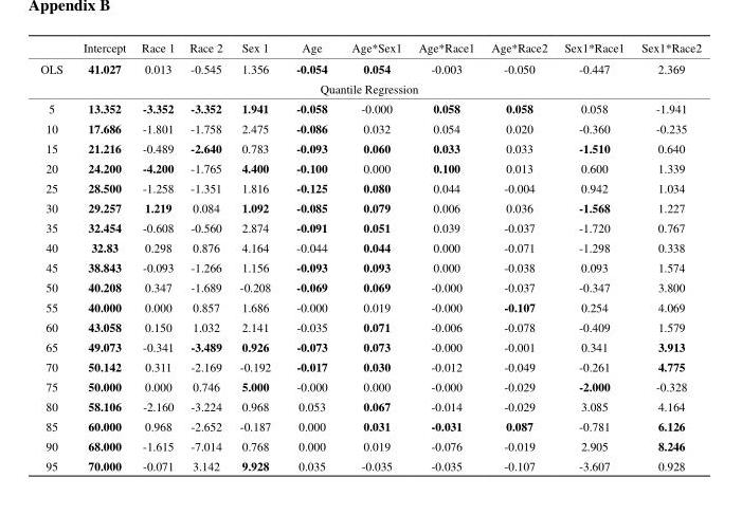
<table><thead><tr><td></td><td>Intercept</td><td>Race 1</td><td>Race 2</td><td>Sex 1</td><td>Age</td><td>Age*Sex1</td><td>Age*Race1</td><td>Age*Race2</td><td>Sex1*Race1</td><td>Sex1*Race2</td></tr></thead><tbody><tr><td>OLS</td><td>41.027</td><td>0.013</td><td>-0.545</td><td>1.356</td><td>-0.054</td><td>0.054</td><td>-0.003</td><td>-0.050</td><td>-0.447</td><td>2.369</td></tr><tr><td colspan="11">Quantile Regression</td></tr><tr><td>5</td><td>13.352</td><td>-3.352</td><td>-3.352</td><td>1.941</td><td>-0.058</td><td>-0.000</td><td>0.058</td><td>0.058</td><td>0.058</td><td>-1.941</td></tr><tr><td>10</td><td>17.686</td><td>-1.801</td><td>-1.758</td><td>2.475</td><td>-0.086</td><td>0.032</td><td>0.054</td><td>0.020</td><td>-0.360</td><td>-0.235</td></tr><tr><td>15</td><td>21.216</td><td>-0.489</td><td>-2.640</td><td>0.783</td><td>-0.093</td><td>0.060</td><td>0.033</td><td>0.033</td><td>-1.510</td><td>0.640</td></tr><tr><td>20</td><td>24.200</td><td>-4.200</td><td>-1.765</td><td>4.400</td><td>-0.100</td><td>0.000</td><td>0.100</td><td>0.013</td><td>0.600</td><td>1.339</td></tr><tr><td>25</td><td>28.500</td><td>-1.258</td><td>-1.351</td><td>1.816</td><td>-0.125</td><td>0.080</td><td>0.044</td><td>-0.004</td><td>0.942</td><td>1.034</td></tr><tr><td>30</td><td>29.257</td><td>1.219</td><td>0.084</td><td>1.092</td><td>-0.085</td><td>0.079</td><td>0.006</td><td>0.036</td><td>-1.568</td><td>1.227</td></tr><tr><td>35</td><td>32.454</td><td>-0.608</td><td>-0.560</td><td>2.874</td><td>-0.091</td><td>0.051</td><td>0.039</td><td>-0.037</td><td>-1.720</td><td>0.767</td></tr><tr><td>40</td><td>32.83</td><td>0.298</td><td>0.876</td><td>4.164</td><td>-0.044</td><td>0.044</td><td>0.000</td><td>-0.071</td><td>-1.298</td><td>0.338</td></tr><tr><td>45</td><td>38.843</td><td>-0.093</td><td>-1.266</td><td>1.156</td><td>-0.093</td><td>0.093</td><td>0.000</td><td>-0.038</td><td>0.093</td><td>1.574</td></tr><tr><td>50</td><td>40.208</td><td>0.347</td><td>-1.689</td><td>-0.208</td><td>-0.069</td><td>0.069</td><td>-0.000</td><td>-0.037</td><td>-0.347</td><td>3.800</td></tr><tr><td>55</td><td>40.000</td><td>0.000</td><td>0.857</td><td>1.686</td><td>-0.000</td><td>0.019</td><td>-0.000</td><td>-0.107</td><td>0.254</td><td>4.069</td></tr><tr><td>60</td><td>43.058</td><td>0.150</td><td>1.032</td><td>2.141</td><td>-0.035</td><td>0.071</td><td>-0.006</td><td>-0.078</td><td>-0.409</td><td>1.579</td></tr><tr><td>65</td><td>49.073</td><td>-0.341</td><td>-3.489</td><td>0.926</td><td>-0.073</td><td>0.073</td><td>-0.000</td><td>-0.001</td><td>0.341</td><td>3.913</td></tr><tr><td>70</td><td>50.142</td><td>0.311</td><td>-2.169</td><td>-0.192</td><td>-0.017</td><td>0.030</td><td>-0.012</td><td>-0.049</td><td>-0.261</td><td>4.775</td></tr><tr><td>75</td><td>50.000</td><td>0.000</td><td>0.746</td><td>5.000</td><td>-0.000</td><td>0.000</td><td>-0.000</td><td>-0.029</td><td>-2.000</td><td>-0.328</td></tr><tr><td>80</td><td>58.106</td><td>-2.160</td><td>-3.224</td><td>0.968</td><td>0.053</td><td>0.067</td><td>-0.014</td><td>-0.029</td><td>3.085</td><td>4.164</td></tr><tr><td>85</td><td>60.000</td><td>0.968</td><td>-2.652</td><td>-0.187</td><td>0.000</td><td>0.031</td><td>-0.031</td><td>0.087</td><td>-0.781</td><td>6.126</td></tr><tr><td>90</td><td>68.000</td><td>-1.615</td><td>-7.014</td><td>0.768</td><td>0.000</td><td>0.019</td><td>-0.076</td><td>-0.019</td><td>2.905</td><td>8.246</td></tr><tr><td>95</td><td>70.000</td><td>-0.071</td><td>3.142</td><td>9.928</td><td>0.035</td><td>-0.035</td><td>-0.035</td><td>-0.107</td><td>-3.607</td><td>0.928</td></tr></tbody></table>